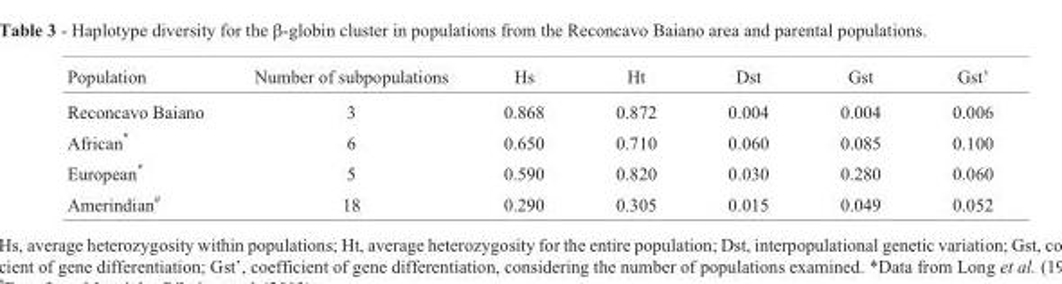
<table><thead><tr><td>Population</td><td>Number of subpopulations</td><td>Hs</td><td>Ht</td><td>Dst</td><td>Gst</td><td>Gst’</td></tr></thead><tbody><tr><td>Reconcavo Baiano</td><td>3</td><td>0.868</td><td>0.872</td><td>0.004</td><td>0.004</td><td>0.006</td></tr><tr><td>African*</td><td>6</td><td>0.650</td><td>0.710</td><td>0.060</td><td>0.085</td><td>0.100</td></tr><tr><td>European*</td><td>5</td><td>0.590</td><td>0.820</td><td>0.030</td><td>0.280</td><td>0.060</td></tr><tr><td>Amerindian<sup>#</sup></td><td>18</td><td>0.290</td><td>0.305</td><td>0.015</td><td>0.049</td><td>0.052</td></tr></tbody></table>